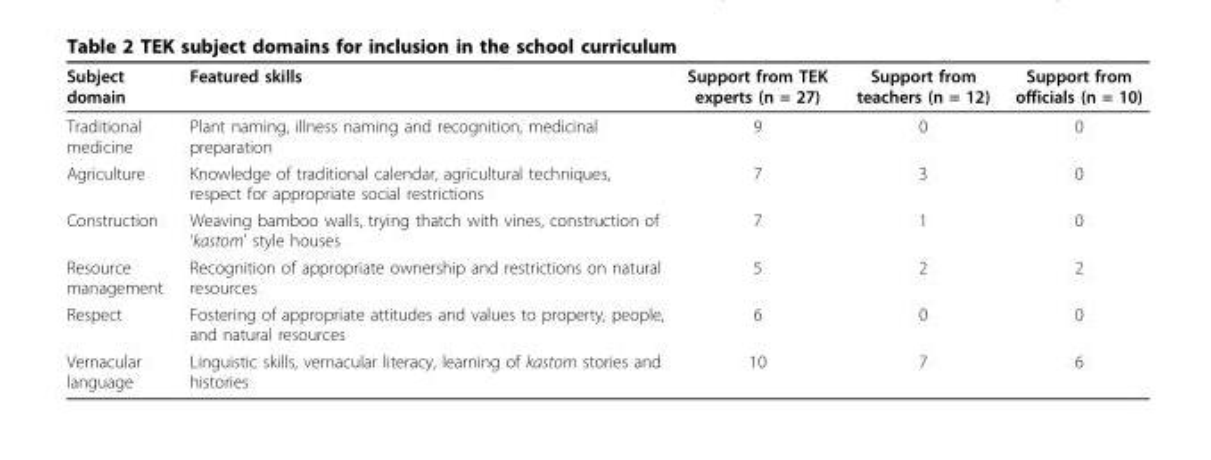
<table><thead><tr><td>Subject domain</td><td>Featured skills</td><td>Support from TEK experts (n = 27)</td><td>Support from teachers (n = 12)</td><td>Support from officials (n = 10)</td></tr></thead><tbody><tr><td>Traditional medicine</td><td>Plant naming, illness naming and recognition, medicinal preparation</td><td>9</td><td>0</td><td>0</td></tr><tr><td>Agriculture</td><td>Knowledge of traditional calendar, agricultural techniques, respect for appropriate social restrictions</td><td>7</td><td>3</td><td>0</td></tr><tr><td>Construction</td><td>Weaving bamboo walls, trying thatch with vines, construction of ‘kastom’ style houses</td><td>7</td><td>1</td><td>0</td></tr><tr><td>Resource management</td><td>Recognition of appropriate ownership and restrictions on natural resources</td><td>5</td><td>2</td><td>2</td></tr><tr><td>Respect</td><td>Fostering of appropriate attitudes and values to property, people, and natural resources</td><td>6</td><td>0</td><td>0</td></tr><tr><td>Vernacular language</td><td>Linguistic skills, vernacular literacy, learning of kastom stories and histories</td><td>10</td><td>7</td><td>6</td></tr></tbody></table>